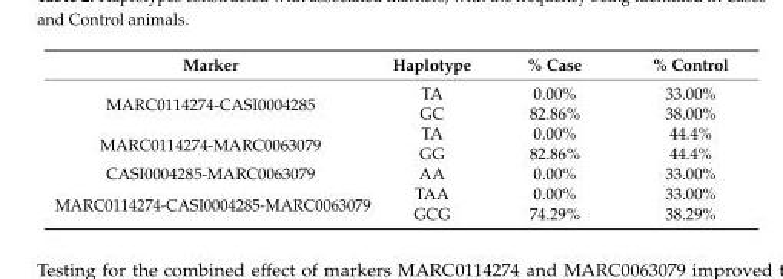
<table><thead><tr><td>Marker</td><td>Haplotype</td><td>% Case</td><td>% Control</td></tr></thead><tbody><tr><td rowspan="2">MARC0114274-CASI0004285</td><td>TA</td><td>0.00%</td><td>33.00%</td></tr><tr><td>GC</td><td>82.86%</td><td>38.00%</td></tr><tr><td rowspan="2">MARC0114274-MARC0063079</td><td>TA</td><td>0.00%</td><td>44.4%</td></tr><tr><td>GG</td><td>82.86%</td><td>44.4%</td></tr><tr><td>CASI0004285-MARC0063079</td><td>AA</td><td>0.00%</td><td>33.00%</td></tr><tr><td rowspan="2">MARC0114274-CASI0004285-MARC0063079</td><td>TAA</td><td>0.00%</td><td>33.00%</td></tr><tr><td>GCG</td><td>74.29%</td><td>38.29%</td></tr></tbody></table>